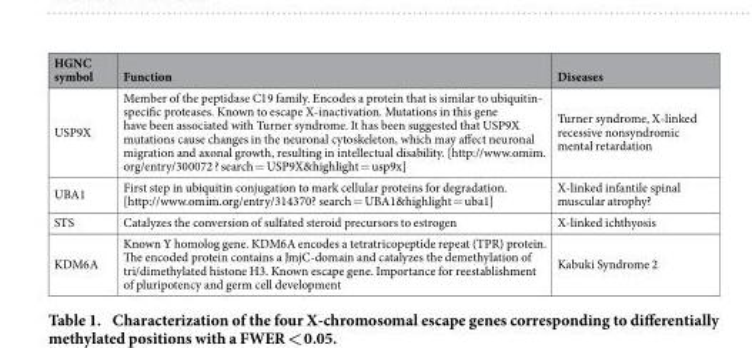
<table><thead><tr><td>HGNC symbol</td><td>Function</td><td>Diseases</td></tr></thead><tbody><tr><td>USP9X</td><td>Member of the peptidase C19 family. Encodes a protein that is similar to ubiquitin- specific proteases. Known to escape X-inactivation. Mutations in this gene have been associated with Turner syndrome. It has been suggested that USP9X mutations cause changes in the neuronal cytoskeleton, which may affect neuronal migration and axonal growth, resulting in intellectual disability. [http://www.omim. org/entry/300072 ? search = USP9X&amp;highlight = usp9x]</td><td>Turner syndrome, X-linked recessive nonsyndromic mental retardation</td></tr><tr><td>UBA1</td><td>First step in ubiquitin conjugation to mark cellular proteins for degradation. [http://www.omim.org/entry/314370? search = UBA1&amp;highlight = uba1]</td><td>X-linked infantile spinal muscular atrophy?</td></tr><tr><td>STS</td><td>Catalyzes the conversion of sulfated steroid precursors to estrogen</td><td>X-linked ichthyosis</td></tr><tr><td>KDM6A</td><td>Known Y homolog gene. KDM6A encodes a tetratricopeptide repeat (TPR) protein. The encoded protein contains a JmjC-domain and catalyzes the demethylation of tri/dimethylated histone H3. Known escape gene. Importance for reestablishment of pluripotency and germ cell development</td><td>Kabuki Syndrome 2</td></tr></tbody></table>